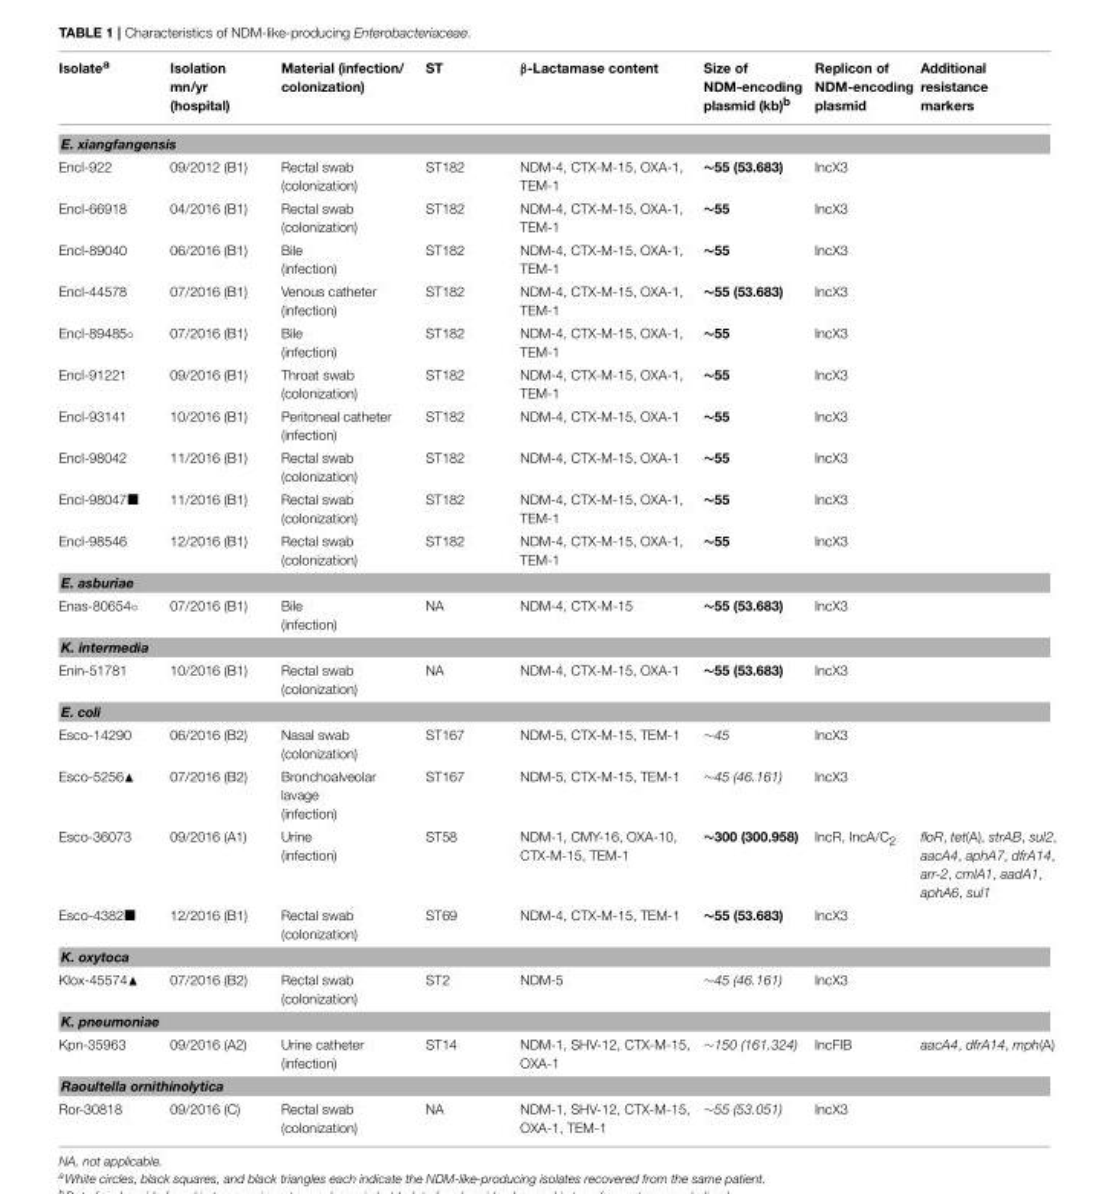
<table><thead><tr><td>Isolate<sup>a</sup></td><td>Isolation mn/yr (hospital)</td><td>Material (infection/ colonization)</td><td>ST</td><td>β-Lactamase content</td><td>Size of NDM-encoding plasmid (kb)<sup>b</sup></td><td>Replicon of NDM-encoding plasmid</td><td>Additional resistance markers</td></tr></thead><tbody><tr><td colspan="8">E. xiangfangensis</td></tr><tr><td>Encl-922</td><td>09/2012 (B1)</td><td>Rectal swab (colonization)</td><td>ST182</td><td>NDM-4, CTX-M-15, OXA-1, TEM-1</td><td>∼55 (53.683)</td><td>IncX3</td><td></td></tr><tr><td>Encl-66918</td><td>04/2016 (B1)</td><td>Rectal swab (colonization)</td><td>ST182</td><td>NDM-4, CTX-M-15, OXA-1, TEM-1</td><td>∼55</td><td>IncX3</td><td></td></tr><tr><td>Encl-89040</td><td>06/2016 (B1)</td><td>Bile (infection)</td><td>ST182</td><td>NDM-4, CTX-M-15, OXA-1, TEM-1</td><td>∼55</td><td>IncX3</td><td></td></tr><tr><td>Encl-44578</td><td>07/2016 (B1)</td><td>Venous catheter (infection)</td><td>ST182</td><td>NDM-4, CTX-M-15, OXA-1, TEM-1</td><td>∼55 (53.683)</td><td>IncX3</td><td></td></tr><tr><td>Encl-89485◦</td><td>07/2016 (B1)</td><td>Bile (infection)</td><td>ST182</td><td>NDM-4, CTX-M-15, OXA-1, TEM-1</td><td>∼55</td><td>IncX3</td><td></td></tr><tr><td>Encl-91221</td><td>09/2016 (B1)</td><td>Throat swab (colonization)</td><td>ST182</td><td>NDM-4, CTX-M-15, OXA-1, TEM-1</td><td>∼55</td><td>IncX3</td><td></td></tr><tr><td>Encl-93141</td><td>10/2016 (B1)</td><td>Peritoneal catheter (infection)</td><td>ST182</td><td>NDM-4, CTX-M-15, OXA-1</td><td>∼55</td><td>IncX3</td><td></td></tr><tr><td>Encl-98042</td><td>11/2016 (B1)</td><td>Rectal swab (colonization)</td><td>ST182</td><td>NDM-4, CTX-M-15, OXA-1</td><td>∼55</td><td>IncX3</td><td></td></tr><tr><td>Encl-98047■</td><td>11/2016 (B1)</td><td>Rectal swab (colonization)</td><td>ST182</td><td>NDM-4, CTX-M-15, OXA-1, TEM-1</td><td>∼55</td><td>IncX3</td><td></td></tr><tr><td>Encl-98546</td><td>12/2016 (B1)</td><td>Rectal swab (colonization)</td><td>ST182</td><td>NDM-4, CTX-M-15, OXA-1, TEM-1</td><td>∼55</td><td>IncX3</td><td></td></tr><tr><td colspan="8">E. asburiae</td></tr><tr><td>Enas-80654◦</td><td>07/2016 (B1)</td><td>Bile (infection)</td><td>NA</td><td>NDM-4, CTX-M-15</td><td>∼55 (53.683)</td><td>IncX3</td><td></td></tr><tr><td colspan="8">K. intermedia</td></tr><tr><td>Enin-51781</td><td>10/2016 (B1)</td><td>Rectal swab (colonization)</td><td>NA</td><td>NDM-4, CTX-M-15, OXA-1</td><td>∼55 (53.683)</td><td>IncX3</td><td></td></tr><tr><td colspan="8">E. coli</td></tr><tr><td>Esco-14290</td><td>06/2016 (B2)</td><td>Nasal swab (colonization)</td><td>ST167</td><td>NDM-5, CTX-M-15, TEM-1</td><td>∼45</td><td>IncX3</td><td></td></tr><tr><td>Esco-5256▲</td><td>07/2016 (B2)</td><td>Bronchoalveolar lavage (infection)</td><td>ST167</td><td>NDM-5, CTX-M-15, TEM-1</td><td>∼45 (46.161)</td><td>IncX3</td><td></td></tr><tr><td>Esco-36073</td><td>09/2016 (A1)</td><td>Urine (infection)</td><td>ST58</td><td>NDM-1, CMY-16, OXA-10, CTX-M-15, TEM-1</td><td>∼300 (300.958)</td><td>IncR, IncA/C<sub>2</sub></td><td>floR, tet(A), strAB, sul2, aacA4, aphA7, dfrA14, arr-2, cmlA1, aadA1, aphA6, sul1</td></tr><tr><td>Esco-4382■</td><td>12/2016 (B1)</td><td>Rectal swab (colonization)</td><td>ST69</td><td>NDM-4, CTX-M-15, TEM-1</td><td>∼55 (53.683)</td><td>IncX3</td><td></td></tr><tr><td colspan="8">K. oxytoca</td></tr><tr><td>Klox-45574▲</td><td>07/2016 (B2)</td><td>Rectal swab (colonization)</td><td>ST2</td><td>NDM-5</td><td>∼45 (46.161)</td><td>IncX3</td><td></td></tr><tr><td colspan="8">K. pneumoniae</td></tr><tr><td>Kpn-35963</td><td>09/2016 (A2)</td><td>Urine catheter (infection)</td><td>ST14</td><td>NDM-1, SHV-12, CTX-M-15, OXA-1</td><td>∼150 (161.324)</td><td>IncFIB</td><td>aacA4, dfrA14, mph(A)</td></tr><tr><td colspan="8">Raoultella ornithinolytica</td></tr><tr><td>Ror-30818</td><td>09/2016 (C)</td><td>Rectal swab (colonization)</td><td>NA</td><td>NDM-1, SHV-12, CTX-M-15, OXA-1, TEM-1</td><td>∼55 (53.051)</td><td>IncX3</td><td></td></tr></tbody></table>